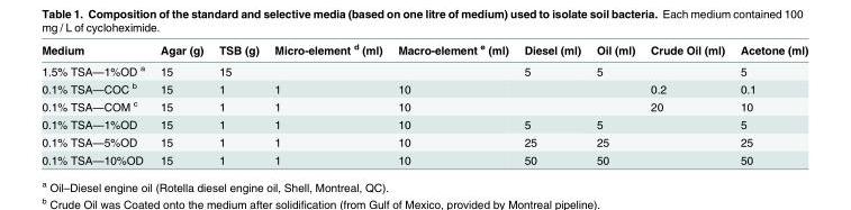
<table><thead><tr><td>Medium</td><td>Agar (g)</td><td>TSB (g)</td><td>Micro-element <sup>d</sup> (ml)</td><td>Macro-element <sup>e</sup> (ml)</td><td>Diesel (ml)</td><td>Oil (ml)</td><td>Crude Oil (ml)</td><td>Acetone (ml)</td></tr></thead><tbody><tr><td>1.5% TSA—1%OD <sup>a</sup></td><td>15</td><td>15</td><td></td><td></td><td>5</td><td>5</td><td></td><td>5</td></tr><tr><td>0.1% TSA—COC <sup>b</sup></td><td>15</td><td>1</td><td>1</td><td>10</td><td></td><td></td><td>0.2</td><td>0.1</td></tr><tr><td>0.1% TSA—COM <sup>c</sup></td><td>15</td><td>1</td><td>1</td><td>10</td><td></td><td></td><td>20</td><td>10</td></tr><tr><td>0.1% TSA—1%OD</td><td>15</td><td>1</td><td>1</td><td>10</td><td>5</td><td>5</td><td></td><td>5</td></tr><tr><td>0.1% TSA—5%OD</td><td>15</td><td>1</td><td>1</td><td>10</td><td>25</td><td>25</td><td></td><td>25</td></tr><tr><td>0.1% TSA—10%OD</td><td>15</td><td>1</td><td>1</td><td>10</td><td>50</td><td>50</td><td></td><td>50</td></tr></tbody></table>